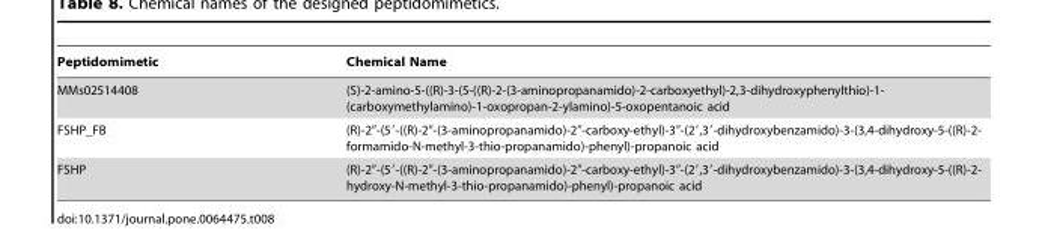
<table><thead><tr><td>Peptidomimetic</td><td>Chemical Name</td></tr></thead><tbody><tr><td>MMs02514408</td><td>(S)-2-amino-5-((R)-3-(5-((R)-2-(3-aminopropanamido)-2-carboxyethyl)-2,3-dihydroxyphenylthio)-1- (carboxymethylamino)-1-oxopropan-2-ylamino)-5-oxopentanoic acid</td></tr><tr><td>FSHP_FB</td><td>(R)-2″-(5′-((R)-2″-(3-aminopropanamido)-2″-carboxy-ethyl)-3″-(2′,3′-dihydroxybenzamido)-3-(3,4-dihydroxy-5-((R)-2- formamido-N-methyl-3-thio-propanamido)-phenyl)-propanoic acid</td></tr><tr><td>FSHP</td><td>(R)-2″-(5′-((R)-2″-(3-aminopropanamido)-2″-carboxy-ethyl)-3″-(2′,3′-dihydroxybenzamido)-3-(3,4-dihydroxy-5-((R)-2- hydroxy-N-methyl-3-thio-propanamido)-phenyl)-propanoic acid</td></tr></tbody></table>